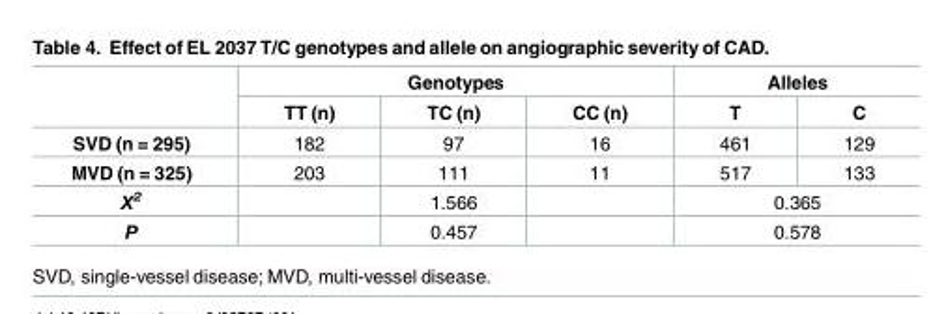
<table><thead><tr><td rowspan="2"></td><td colspan="3">Genotypes</td><td colspan="2">Alleles</td></tr><tr><td>TT (n)</td><td>TC (n)</td><td>CC (n)</td><td>T</td><td>C</td></tr></thead><tbody><tr><td>SVD (n = 295)</td><td>182</td><td>97</td><td>16</td><td>461</td><td>129</td></tr><tr><td>MVD (n = 325)</td><td>203</td><td>111</td><td>11</td><td>517</td><td>133</td></tr><tr><td>X<sup>2</sup></td><td></td><td>1.566</td><td></td><td colspan="2">0.365</td></tr><tr><td>P</td><td></td><td>0.457</td><td></td><td colspan="2">0.578</td></tr></tbody></table>